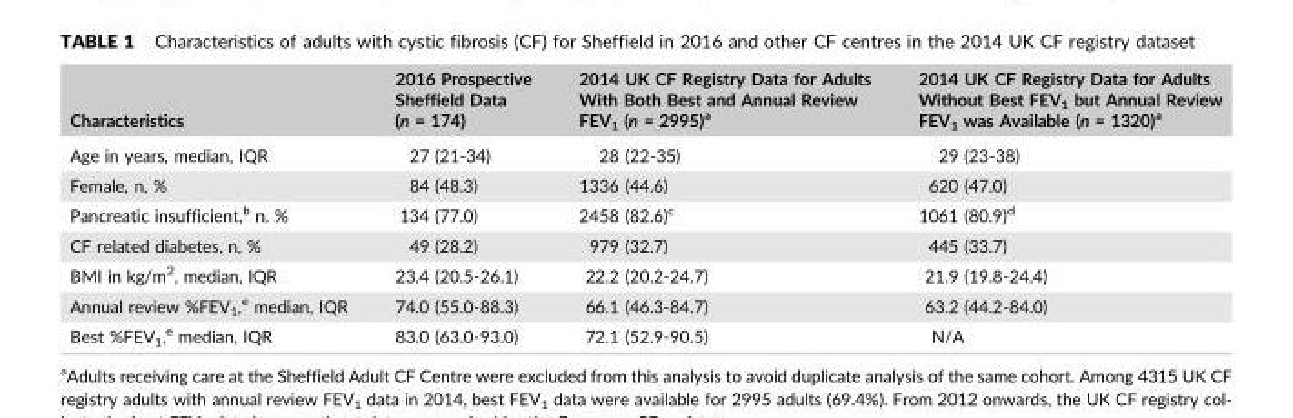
<table><thead><tr><td>Characteristics</td><td>2016 Prospective Sheffield Data (n = 174)</td><td>2014 UK CF Registry Data for Adults With Both Best and Annual Review FEV<sub>1</sub> (n = 2995)<sup>a</sup></td><td>2014 UK CF Registry Data for Adults Without Best FEV<sub>1</sub> but Annual Review FEV<sub>1</sub> was Available (n = 1320)<sup>a</sup></td></tr></thead><tbody><tr><td>Age in years, median, IQR</td><td>27 (21‐34)</td><td>28 (22‐35)</td><td>29 (23‐38)</td></tr><tr><td>Female, n, %</td><td>84 (48.3)</td><td>1336 (44.6)</td><td>620 (47.0)</td></tr><tr><td>Pancreatic insufficient,<sup>b</sup> n. %</td><td>134 (77.0)</td><td>2458 (82.6)<sup>c</sup></td><td>1061 (80.9)<sup>d</sup></td></tr><tr><td>CF related diabetes, n, %</td><td>49 (28.2)</td><td>979 (32.7)</td><td>445 (33.7)</td></tr><tr><td>BMI in kg/m<sup>2</sup>, median, IQR</td><td>23.4 (20.5‐26.1)</td><td>22.2 (20.2‐24.7)</td><td>21.9 (19.8‐24.4)</td></tr><tr><td>Annual review %FEV<sub>1</sub>,<sup>e</sup> median, IQR</td><td>74.0 (55.0‐88.3)</td><td>66.1 (46.3‐84.7)</td><td>63.2 (44.2‐84.0)</td></tr><tr><td>Best %FEV<sub>1</sub>,<sup>e</sup> median, IQR</td><td>83.0 (63.0‐93.0)</td><td>72.1 (52.9‐90.5)</td><td>N/A</td></tr></tbody></table>